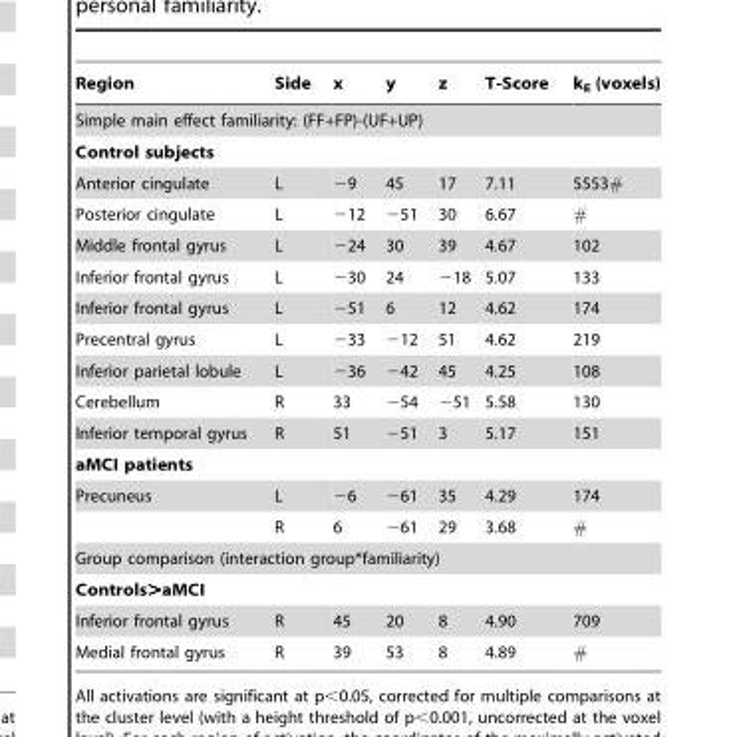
<table><thead><tr><td>Region</td><td>Side</td><td>x</td><td>y</td><td>z</td><td>T-Score</td><td>k<sub>E</sub> (voxels)</td></tr></thead><tbody><tr><td colspan="7">Simple main effect familiarity: (FF+FP)-(UF+UP)</td></tr><tr><td colspan="7">Control subjects</td></tr><tr><td>Anterior cingulate</td><td>L</td><td>−9</td><td>45</td><td>17</td><td>7.11</td><td>5553#</td></tr><tr><td>Posterior cingulate</td><td>L</td><td>−12</td><td>−51</td><td>30</td><td>6.67</td><td>#</td></tr><tr><td>Middle frontal gyrus</td><td>L</td><td>−24</td><td>30</td><td>39</td><td>4.67</td><td>102</td></tr><tr><td>Inferior frontal gyrus</td><td>L</td><td>−30</td><td>24</td><td>−18</td><td>5.07</td><td>133</td></tr><tr><td>Inferior frontal gyrus</td><td>L</td><td>−51</td><td>6</td><td>12</td><td>4.62</td><td>174</td></tr><tr><td>Precentral gyrus</td><td>L</td><td>−33</td><td>−12</td><td>51</td><td>4.62</td><td>219</td></tr><tr><td>Inferior parietal lobule</td><td>L</td><td>−36</td><td>−42</td><td>45</td><td>4.25</td><td>108</td></tr><tr><td>Cerebellum</td><td>R</td><td>33</td><td>−54</td><td>−51</td><td>5.58</td><td>130</td></tr><tr><td>Inferior temporal gyrus</td><td>R</td><td>51</td><td>−51</td><td>3</td><td>5.17</td><td>151</td></tr><tr><td colspan="7">aMCI patients</td></tr><tr><td rowspan="2">Precuneus</td><td>L</td><td>−6</td><td>−61</td><td>35</td><td>4.29</td><td>174</td></tr><tr><td>R</td><td>6</td><td>−61</td><td>29</td><td>3.68</td><td>#</td></tr><tr><td colspan="7">Group comparison (interaction group*familiarity)</td></tr><tr><td colspan="7">Controls&gt;aMCI</td></tr><tr><td>Inferior frontal gyrus</td><td>R</td><td>45</td><td>20</td><td>8</td><td>4.90</td><td>709</td></tr><tr><td>Medial frontal gyrus</td><td>R</td><td>39</td><td>53</td><td>8</td><td>4.89</td><td>#</td></tr></tbody></table>